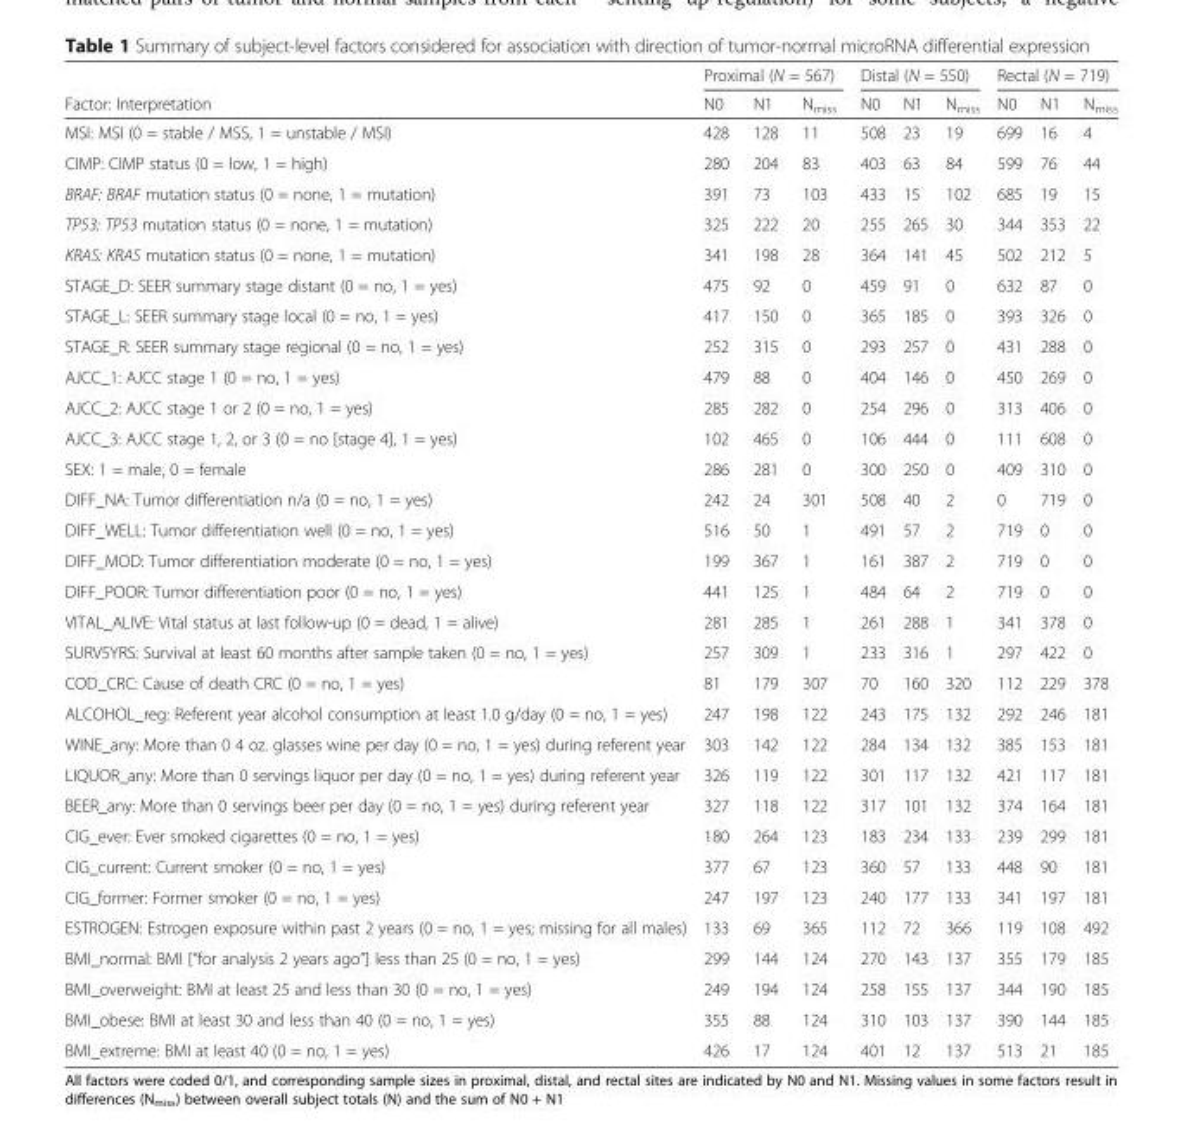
<table><thead><tr><td rowspan="2">Factor: Interpretation</td><td colspan="3">Proximal (N = 567)</td><td colspan="3">Distal (N = 550)</td><td colspan="3">Rectal (N = 719)</td></tr><tr><td>N0</td><td>N1</td><td>N<sub>miss</sub></td><td>N0</td><td>N1</td><td>N<sub>miss</sub></td><td>N0</td><td>N1</td><td>N<sub>miss</sub></td></tr></thead><tbody><tr><td>MSI: MSI (0 = stable / MSS, 1 = unstable / MSI)</td><td>428</td><td>128</td><td>11</td><td>508</td><td>23</td><td>19</td><td>699</td><td>16</td><td>4</td></tr><tr><td>CIMP: CIMP status (0 = low, 1 = high)</td><td>280</td><td>204</td><td>83</td><td>403</td><td>63</td><td>84</td><td>599</td><td>76</td><td>44</td></tr><tr><td>BRAF: BRAF mutation status (0 = none, 1 = mutation)</td><td>391</td><td>73</td><td>103</td><td>433</td><td>15</td><td>102</td><td>685</td><td>19</td><td>15</td></tr><tr><td>TP53: TP53 mutation status (0 = none, 1 = mutation)</td><td>325</td><td>222</td><td>20</td><td>255</td><td>265</td><td>30</td><td>344</td><td>353</td><td>22</td></tr><tr><td>KRAS: KRAS mutation status (0 = none, 1 = mutation)</td><td>341</td><td>198</td><td>28</td><td>364</td><td>141</td><td>45</td><td>502</td><td>212</td><td>5</td></tr><tr><td>STAGE_D: SEER summary stage distant (0 = no, 1 = yes)</td><td>475</td><td>92</td><td>0</td><td>459</td><td>91</td><td>0</td><td>632</td><td>87</td><td>0</td></tr><tr><td>STAGE_L: SEER summary stage local (0 = no, 1 = yes)</td><td>417</td><td>150</td><td>0</td><td>365</td><td>185</td><td>0</td><td>393</td><td>326</td><td>0</td></tr><tr><td>STAGE_R: SEER summary stage regional (0 = no, 1 = yes)</td><td>252</td><td>315</td><td>0</td><td>293</td><td>257</td><td>0</td><td>431</td><td>288</td><td>0</td></tr><tr><td>AJCC_1: AJCC stage 1 (0 = no, 1 = yes)</td><td>479</td><td>88</td><td>0</td><td>404</td><td>146</td><td>0</td><td>450</td><td>269</td><td>0</td></tr><tr><td>AJCC_2: AJCC stage 1 or 2 (0 = no, 1 = yes)</td><td>285</td><td>282</td><td>0</td><td>254</td><td>296</td><td>0</td><td>313</td><td>406</td><td>0</td></tr><tr><td>AJCC_3: AJCC stage 1, 2, or 3 (0 = no [stage 4], 1 = yes)</td><td>102</td><td>465</td><td>0</td><td>106</td><td>444</td><td>0</td><td>111</td><td>608</td><td>0</td></tr><tr><td>SEX: 1 = male, 0 = female</td><td>286</td><td>281</td><td>0</td><td>300</td><td>250</td><td>0</td><td>409</td><td>310</td><td>0</td></tr><tr><td>DIFF_NA: Tumor differentiation n/a (0 = no, 1 = yes)</td><td>242</td><td>24</td><td>301</td><td>508</td><td>40</td><td>2</td><td>0</td><td>719</td><td>0</td></tr><tr><td>DIFF_WELL: Tumor differentiation well (0 = no, 1 = yes)</td><td>516</td><td>50</td><td>1</td><td>491</td><td>57</td><td>2</td><td>719</td><td>0</td><td>0</td></tr><tr><td>DIFF_MOD: Tumor differentiation moderate (0 = no, 1 = yes)</td><td>199</td><td>367</td><td>1</td><td>161</td><td>387</td><td>2</td><td>719</td><td>0</td><td>0</td></tr><tr><td>DIFF_POOR: Tumor differentiation poor (0 = no, 1 = yes)</td><td>441</td><td>125</td><td>1</td><td>484</td><td>64</td><td>2</td><td>719</td><td>0</td><td>0</td></tr><tr><td>VITAL_ALIVE: Vital status at last follow-up (0 = dead, 1 = alive)</td><td>281</td><td>285</td><td>1</td><td>261</td><td>288</td><td>1</td><td>341</td><td>378</td><td>0</td></tr><tr><td>SURV5YRS: Survival at least 60 months after sample taken (0 = no, 1 = yes)</td><td>257</td><td>309</td><td>1</td><td>233</td><td>316</td><td>1</td><td>297</td><td>422</td><td>0</td></tr><tr><td>COD_CRC: Cause of death CRC (0 = no, 1 = yes)</td><td>81</td><td>179</td><td>307</td><td>70</td><td>160</td><td>320</td><td>112</td><td>229</td><td>378</td></tr><tr><td>ALCOHOL_reg: Referent year alcohol consumption at least 1.0 g/day (0 = no, 1 = yes)</td><td>247</td><td>198</td><td>122</td><td>243</td><td>175</td><td>132</td><td>292</td><td>246</td><td>181</td></tr><tr><td>WINE_any: More than 0 4 oz. glasses wine per day (0 = no, 1 = yes) during referent year</td><td>303</td><td>142</td><td>122</td><td>284</td><td>134</td><td>132</td><td>385</td><td>153</td><td>181</td></tr><tr><td>LIQUOR_any: More than 0 servings liquor per day (0 = no, 1 = yes) during referent year</td><td>326</td><td>119</td><td>122</td><td>301</td><td>117</td><td>132</td><td>421</td><td>117</td><td>181</td></tr><tr><td>BEER_any: More than 0 servings beer per day (0 = no, 1 = yes) during referent year</td><td>327</td><td>118</td><td>122</td><td>317</td><td>101</td><td>132</td><td>374</td><td>164</td><td>181</td></tr><tr><td>CIG_ever: Ever smoked cigarettes (0 = no, 1 = yes)</td><td>180</td><td>264</td><td>123</td><td>183</td><td>234</td><td>133</td><td>239</td><td>299</td><td>181</td></tr><tr><td>CIG_current: Current smoker (0 = no, 1 = yes)</td><td>377</td><td>67</td><td>123</td><td>360</td><td>57</td><td>133</td><td>448</td><td>90</td><td>181</td></tr><tr><td>CIG_former: Former smoker (0 = no, 1 = yes)</td><td>247</td><td>197</td><td>123</td><td>240</td><td>177</td><td>133</td><td>341</td><td>197</td><td>181</td></tr><tr><td>ESTROGEN: Estrogen exposure within past 2 years (0 = no, 1 = yes; missing for all males)</td><td>133</td><td>69</td><td>365</td><td>112</td><td>72</td><td>366</td><td>119</td><td>108</td><td>492</td></tr><tr><td>BMI_normal: BMI [“for analysis 2 years ago”] less than 25 (0 = no, 1 = yes)</td><td>299</td><td>144</td><td>124</td><td>270</td><td>143</td><td>137</td><td>355</td><td>179</td><td>185</td></tr><tr><td>BMI_overweight: BMI at least 25 and less than 30 (0 = no, 1 = yes)</td><td>249</td><td>194</td><td>124</td><td>258</td><td>155</td><td>137</td><td>344</td><td>190</td><td>185</td></tr><tr><td>BMI_obese: BMI at least 30 and less than 40 (0 = no, 1 = yes)</td><td>355</td><td>88</td><td>124</td><td>310</td><td>103</td><td>137</td><td>390</td><td>144</td><td>185</td></tr><tr><td>BMI_extreme: BMI at least 40 (0 = no, 1 = yes)</td><td>426</td><td>17</td><td>124</td><td>401</td><td>12</td><td>137</td><td>513</td><td>21</td><td>185</td></tr></tbody></table>